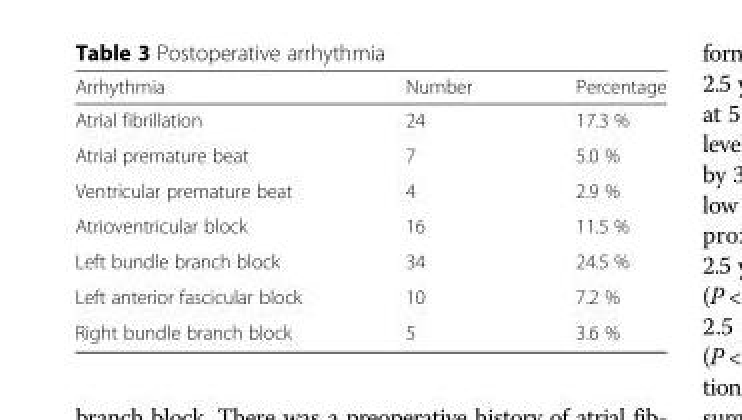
<table><thead><tr><td>Arrhythmia</td><td>Number</td><td>Percentage</td></tr></thead><tbody><tr><td>Atrial fibrillation</td><td>24</td><td>17.3 %</td></tr><tr><td>Atrial premature beat</td><td>7</td><td>5.0 %</td></tr><tr><td>Ventricular premature beat</td><td>4</td><td>2.9 %</td></tr><tr><td>Atrioventricular block</td><td>16</td><td>11.5 %</td></tr><tr><td>Left bundle branch block</td><td>34</td><td>24.5 %</td></tr><tr><td>Left anterior fascicular block</td><td>10</td><td>7.2 %</td></tr><tr><td>Right bundle branch block</td><td>5</td><td>3.6 %</td></tr></tbody></table>